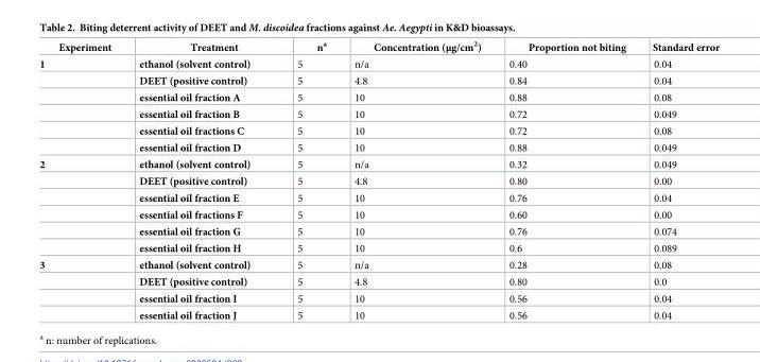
<table><thead><tr><td>Experiment</td><td>Treatment</td><td>n<sup>a</sup></td><td>Concentration (μg/cm<sup>2</sup>)</td><td>Proportion not biting</td><td>Standard error</td></tr></thead><tbody><tr><td rowspan="6">1</td><td>ethanol (solvent control)</td><td>5</td><td>n/a</td><td>0.40</td><td>0.04</td></tr><tr><td>DEET (positive control)</td><td>5</td><td>4.8</td><td>0.84</td><td>0.04</td></tr><tr><td>essential oil fraction A</td><td>5</td><td>10</td><td>0.88</td><td>0.08</td></tr><tr><td>essential oil fraction B</td><td>5</td><td>10</td><td>0.72</td><td>0.049</td></tr><tr><td>essential oil fractions C</td><td>5</td><td>10</td><td>0.72</td><td>0.08</td></tr><tr><td>essential oil fraction D</td><td>5</td><td>10</td><td>0.88</td><td>0.049</td></tr><tr><td rowspan="6">2</td><td>ethanol (solvent control)</td><td>5</td><td>n/a</td><td>0.32</td><td>0.049</td></tr><tr><td>DEET (positive control)</td><td>5</td><td>4.8</td><td>0.80</td><td>0.00</td></tr><tr><td>essential oil fraction E</td><td>5</td><td>10</td><td>0.76</td><td>0.04</td></tr><tr><td>essential oil fractions F</td><td>5</td><td>10</td><td>0.60</td><td>0.00</td></tr><tr><td>essential oil fraction G</td><td>5</td><td>10</td><td>0.76</td><td>0.074</td></tr><tr><td>essential oil fraction H</td><td>5</td><td>10</td><td>0.6</td><td>0.089</td></tr><tr><td rowspan="4">3</td><td>ethanol (solvent control)</td><td>5</td><td>n/a</td><td>0.28</td><td>0.08</td></tr><tr><td>DEET (positive control)</td><td>5</td><td>4.8</td><td>0.80</td><td>0.0</td></tr><tr><td>essential oil fraction I</td><td>5</td><td>10</td><td>0.56</td><td>0.04</td></tr><tr><td>essential oil fraction J</td><td>5</td><td>10</td><td>0.56</td><td>0.04</td></tr></tbody></table>